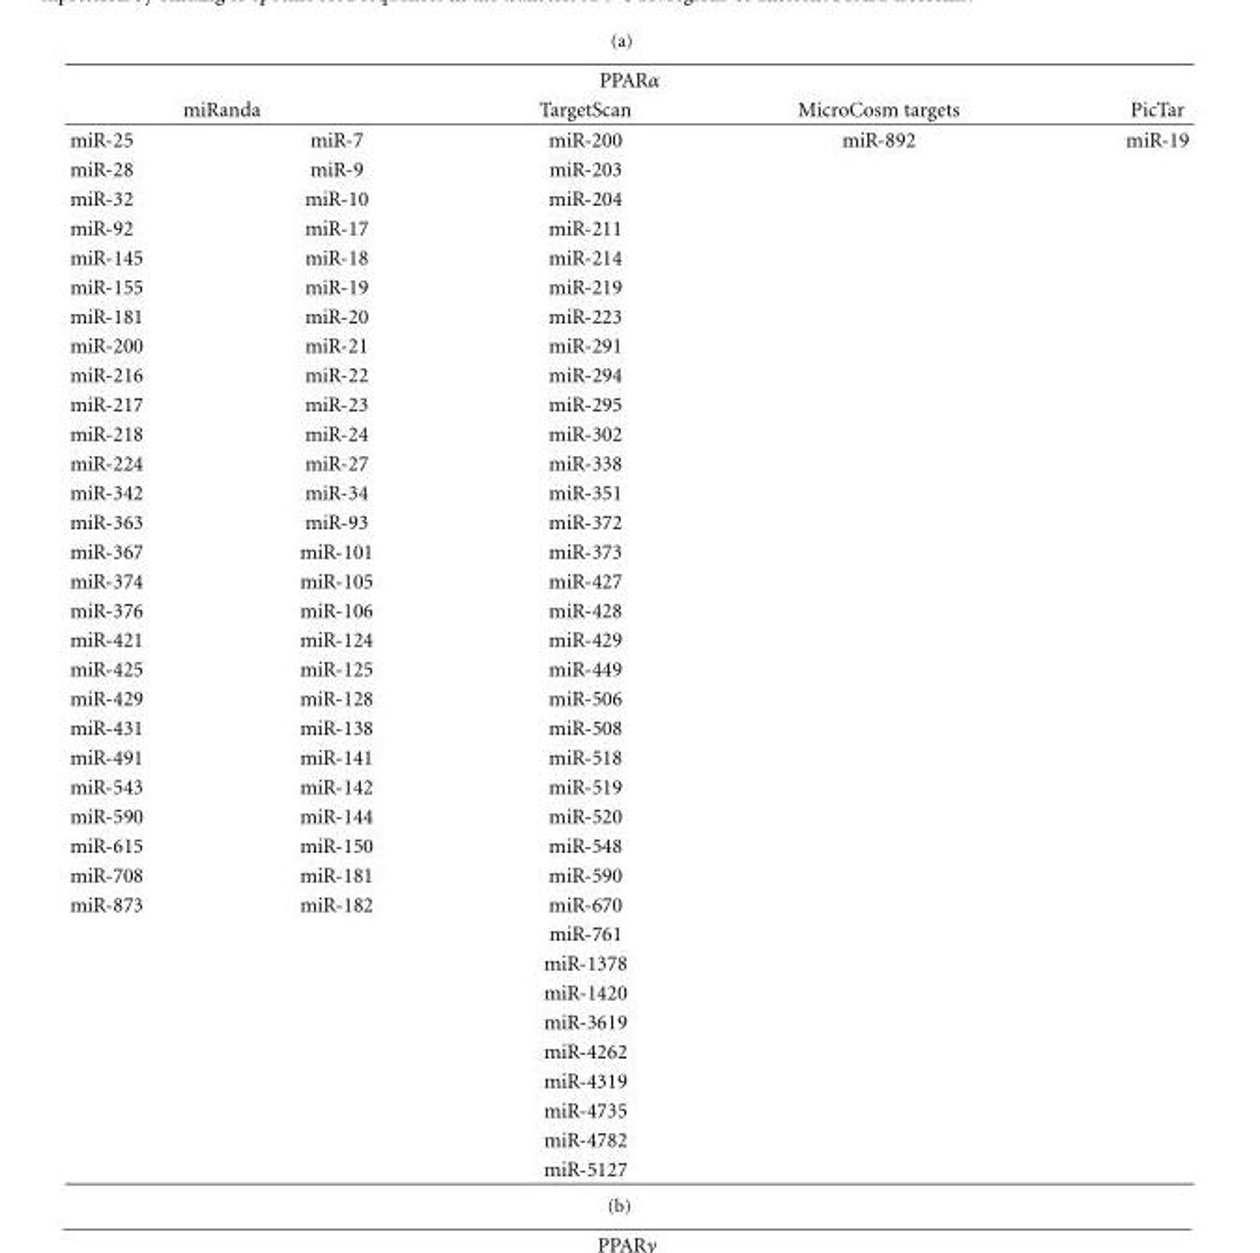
<table><thead><tr><td colspan="5">PPARα</td></tr><tr><td colspan="2">miRanda</td><td rowspan="2">TargetScan miR-200</td><td rowspan="2">MicroCosm targets miR-892</td><td rowspan="2">PicTar miR-19</td></tr><tr><td>miR-25</td><td>miR-7</td></tr></thead><tbody><tr><td>miR-28</td><td>miR-9</td><td>miR-203</td><td></td><td></td></tr><tr><td>miR-32</td><td>miR-10</td><td>miR-204</td><td></td><td></td></tr><tr><td>miR-92</td><td>miR-17</td><td>miR-211</td><td></td><td></td></tr><tr><td>miR-145</td><td>miR-18</td><td>miR-214</td><td></td><td></td></tr><tr><td>miR-155</td><td>miR-19</td><td>miR-219</td><td></td><td></td></tr><tr><td>miR-181</td><td>miR-20</td><td>miR-223</td><td></td><td></td></tr><tr><td>miR-200</td><td>miR-21</td><td>miR-291</td><td></td><td></td></tr><tr><td>miR-216</td><td>miR-22</td><td>miR-294</td><td></td><td></td></tr><tr><td>miR-217</td><td>miR-23</td><td>miR-295</td><td></td><td></td></tr><tr><td>miR-218</td><td>miR-24</td><td>miR-302</td><td></td><td></td></tr><tr><td>miR-224</td><td>miR-27</td><td>miR-338</td><td></td><td></td></tr><tr><td>miR-342</td><td>miR-34</td><td>miR-351</td><td></td><td></td></tr><tr><td>miR-363</td><td>miR-93</td><td>miR-372</td><td></td><td></td></tr><tr><td>miR-367</td><td>miR-101</td><td>miR-373</td><td></td><td></td></tr><tr><td>miR-374</td><td>miR-105</td><td>miR-427</td><td></td><td></td></tr><tr><td>miR-376</td><td>miR-106</td><td>miR-428</td><td></td><td></td></tr><tr><td>miR-421</td><td>miR-124</td><td>miR-429</td><td></td><td></td></tr><tr><td>miR-425</td><td>miR-125</td><td>miR-449</td><td></td><td></td></tr><tr><td>miR-429</td><td>miR-128</td><td>miR-506</td><td></td><td></td></tr><tr><td>miR-431</td><td>miR-138</td><td>miR-508</td><td></td><td></td></tr><tr><td>miR-491</td><td>miR-141</td><td>miR-518</td><td></td><td></td></tr><tr><td>miR-543</td><td>miR-142</td><td>miR-519</td><td></td><td></td></tr><tr><td>miR-590</td><td>miR-144</td><td>miR-520</td><td></td><td></td></tr><tr><td>miR-615</td><td>miR-150</td><td>miR-548</td><td></td><td></td></tr><tr><td>miR-708</td><td>miR-181</td><td>miR-590</td><td></td><td></td></tr><tr><td rowspan="10">miR-873</td><td>miR-182</td><td>miR-670</td><td></td><td></td></tr><tr><td></td><td>miR-761</td><td></td><td></td></tr><tr><td></td><td>miR-1378</td><td></td><td></td></tr><tr><td></td><td>miR-1420</td><td></td><td></td></tr><tr><td></td><td>miR-3619</td><td></td><td></td></tr><tr><td></td><td>miR-4262</td><td></td><td></td></tr><tr><td></td><td>miR-4319</td><td></td><td></td></tr><tr><td></td><td>miR-4735</td><td></td><td></td></tr><tr><td></td><td>miR-4782</td><td></td><td></td></tr><tr><td></td><td>miR-5127</td><td></td><td></td></tr></tbody></table>